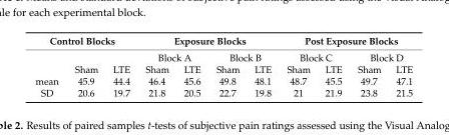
<table><thead><tr><td colspan="3">Control Blocks</td><td colspan="4">Exposure Blocks</td><td colspan="4">Post Exposure Blocks</td></tr><tr><td rowspan="2"></td><td rowspan="2">Sham</td><td rowspan="2">LTE</td><td colspan="2">Block A</td><td colspan="2">Block B</td><td colspan="2">Block C</td><td colspan="2">Block D</td></tr><tr><td>Sham</td><td>LTE</td><td>Sham</td><td>LTE</td><td>Sham</td><td>LTE</td><td>Sham</td><td>LTE</td></tr></thead><tbody><tr><td>mean</td><td>45.9</td><td>44.4</td><td>46.4</td><td>45.6</td><td>49.8</td><td>48.1</td><td>48.7</td><td>45.5</td><td>49.7</td><td>47.1</td></tr><tr><td>SD</td><td>20.6</td><td>19.7</td><td>21.8</td><td>20.5</td><td>22.7</td><td>19.8</td><td>21</td><td>21.9</td><td>23.8</td><td>21.5</td></tr></tbody></table>